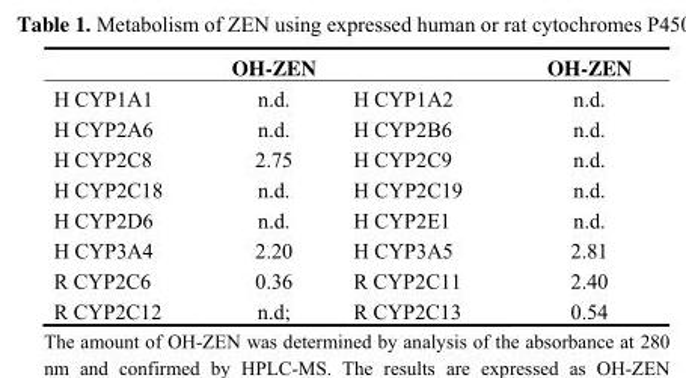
<table><thead><tr><td></td><td>OH-ZEN</td><td></td><td>OH-ZEN</td></tr></thead><tbody><tr><td>H CYP1A1</td><td>n.d.</td><td>H CYP1A2</td><td>n.d.</td></tr><tr><td>H CYP2A6</td><td>n.d.</td><td>H CYP2B6</td><td>n.d.</td></tr><tr><td>H CYP2C8</td><td>2.75</td><td>H CYP2C9</td><td>n.d.</td></tr><tr><td>H CYP2C18</td><td>n.d.</td><td>H CYP2C19</td><td>n.d.</td></tr><tr><td>H CYP2D6</td><td>n.d.</td><td>H CYP2E1</td><td>n.d.</td></tr><tr><td>H CYP3A4</td><td>2.20</td><td>H CYP3A5</td><td>2.81</td></tr><tr><td>R CYP2C6</td><td>0.36</td><td>R CYP2C11</td><td>2.40</td></tr><tr><td>R CYP2C12</td><td>n.d;</td><td>R CYP2C13</td><td>0.54</td></tr></tbody></table>